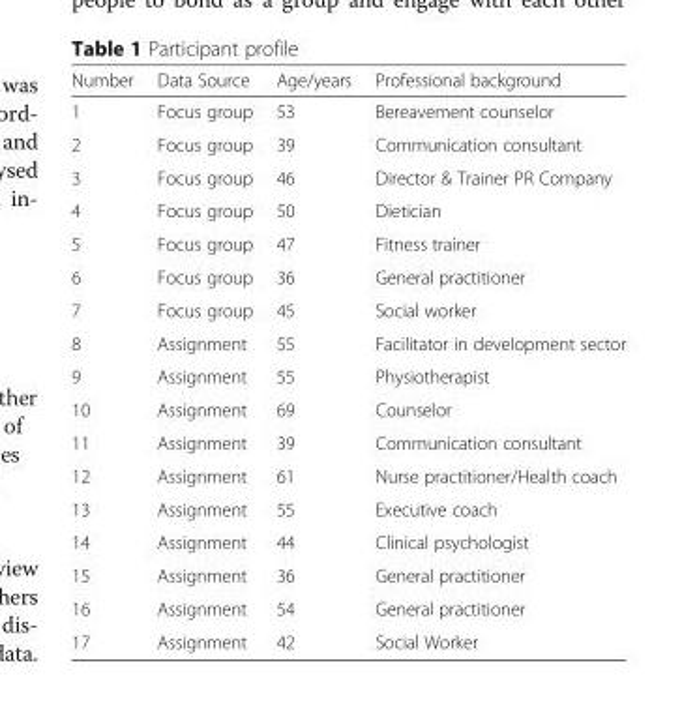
<table><thead><tr><td>Number</td><td>Data Source</td><td>Age/years</td><td>Professional background</td></tr></thead><tbody><tr><td>1</td><td>Focus group</td><td>53</td><td>Bereavement counselor</td></tr><tr><td>2</td><td>Focus group</td><td>39</td><td>Communication consultant</td></tr><tr><td>3</td><td>Focus group</td><td>46</td><td>Director &amp; Trainer PR Company</td></tr><tr><td>4</td><td>Focus group</td><td>50</td><td>Dietician</td></tr><tr><td>5</td><td>Focus group</td><td>47</td><td>Fitness trainer</td></tr><tr><td>6</td><td>Focus group</td><td>36</td><td>General practitioner</td></tr><tr><td>7</td><td>Focus group</td><td>45</td><td>Social worker</td></tr><tr><td>8</td><td>Assignment</td><td>55</td><td>Facilitator in development sector</td></tr><tr><td>9</td><td>Assignment</td><td>55</td><td>Physiotherapist</td></tr><tr><td>10</td><td>Assignment</td><td>69</td><td>Counselor</td></tr><tr><td>11</td><td>Assignment</td><td>39</td><td>Communication consultant</td></tr><tr><td>12</td><td>Assignment</td><td>61</td><td>Nurse practitioner/Health coach</td></tr><tr><td>13</td><td>Assignment</td><td>55</td><td>Executive coach</td></tr><tr><td>14</td><td>Assignment</td><td>44</td><td>Clinical psychologist</td></tr><tr><td>15</td><td>Assignment</td><td>36</td><td>General practitioner</td></tr><tr><td>16</td><td>Assignment</td><td>54</td><td>General practitioner</td></tr><tr><td>17</td><td>Assignment</td><td>42</td><td>Social Worker</td></tr></tbody></table>